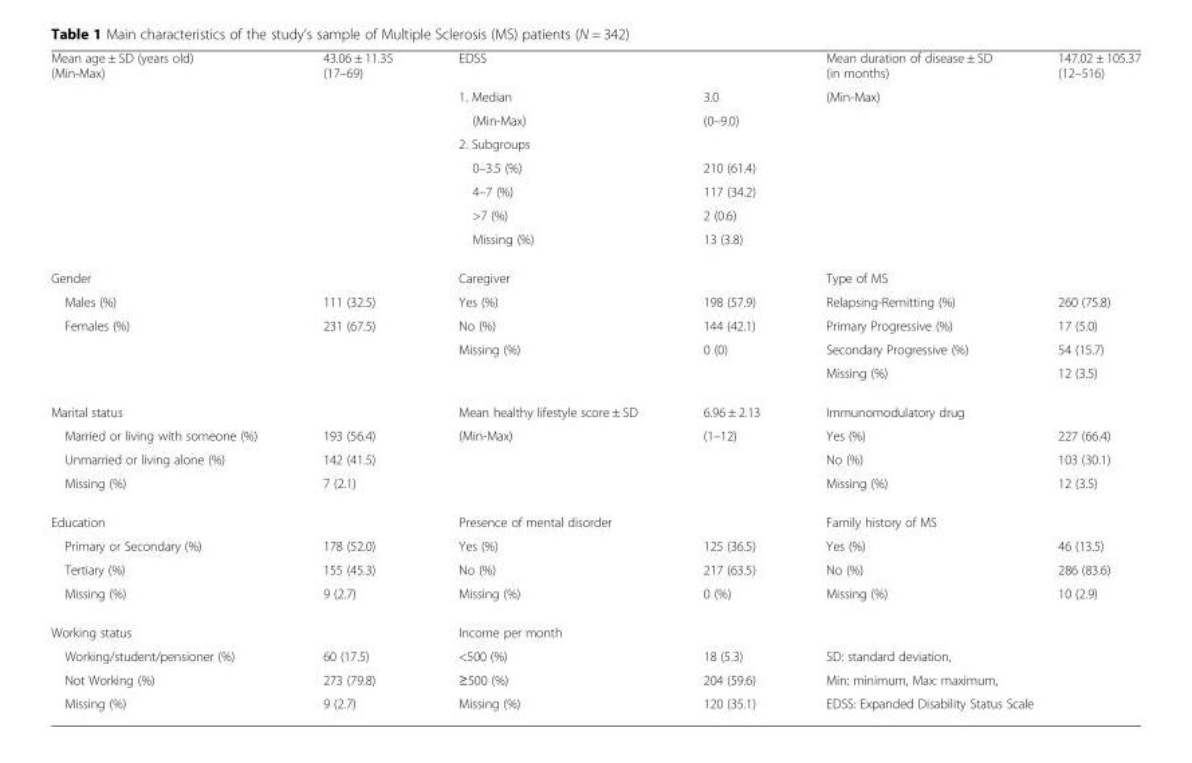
<table><tbody><tr><td rowspan="8">Mean age ± SD (years old) (Min-Max)</td><td rowspan="8">43.06 ± 11.35 (17–69)</td><td>EDSS</td><td></td><td>Mean duration of disease ± SD (in months)</td><td rowspan="8">147.02 ± 105.37 (12–516)</td></tr><tr><td>1. Median</td><td>3.0</td><td>(Min-Max)</td></tr><tr><td>(Min-Max)</td><td>(0–9.0)</td><td></td></tr><tr><td>2. Subgroups</td><td></td><td></td></tr><tr><td>0–3.5 (%)</td><td>210 (61.4)</td><td></td></tr><tr><td>4–7 (%)</td><td>117 (34.2)</td><td rowspan="3"></td></tr><tr><td>&gt;7 (%)</td><td>2 (0.6)</td></tr><tr><td>Missing (%)</td><td>13 (3.8)</td></tr><tr><td>Gender</td><td></td><td>Caregiver</td><td></td><td>Type of MS</td><td></td></tr><tr><td>Males (%)</td><td>111 (32.5)</td><td>Yes (%)</td><td>198 (57.9)</td><td>Relapsing-Remitting (%)</td><td>260 (75.8)</td></tr><tr><td rowspan="3">Females (%)</td><td rowspan="3">231 (67.5)</td><td>No (%)</td><td>144 (42.1)</td><td>Primary Progressive (%)</td><td>17 (5.0)</td></tr><tr><td rowspan="2">Missing (%)</td><td rowspan="2">0 (0)</td><td>Secondary Progressive (%)</td><td>54 (15.7)</td></tr><tr><td>Missing (%)</td><td>12 (3.5)</td></tr><tr><td>Marital status</td><td></td><td>Mean healthy lifestyle score ± SD</td><td>6.96 ± 2.13</td><td>Immunomodulatory drug</td><td></td></tr><tr><td>Married or living with someone (%)</td><td>193 (56.4)</td><td>(Min-Max)</td><td>(1–12)</td><td>Yes (%)</td><td>227 (66.4)</td></tr><tr><td>Unmarried or living alone (%)</td><td>142 (41.5)</td><td></td><td></td><td>No (%)</td><td>103 (30.1)</td></tr><tr><td>Missing (%)</td><td>7 (2.1)</td><td></td><td></td><td>Missing (%)</td><td>12 (3.5)</td></tr><tr><td>Education</td><td></td><td>Presence of mental disorder</td><td></td><td>Family history of MS</td><td></td></tr><tr><td>Primary or Secondary (%)</td><td>178 (52.0)</td><td>Yes (%)</td><td>125 (36.5)</td><td>Yes (%)</td><td>46 (13.5)</td></tr><tr><td>Tertiary (%)</td><td>155 (45.3)</td><td>No (%)</td><td>217 (63.5)</td><td>No (%)</td><td>286 (83.6)</td></tr><tr><td>Missing (%)</td><td>9 (2.7)</td><td>Missing (%)</td><td>0 (%)</td><td>Missing (%)</td><td>10 (2.9)</td></tr><tr><td>Working status</td><td></td><td>Income per month</td><td></td><td colspan="2"></td></tr><tr><td>Working/student/pensioner (%)</td><td>60 (17.5)</td><td>&lt;500 (%)</td><td>18 (5.3)</td><td colspan="2">SD: standard deviation,</td></tr><tr><td>Not Working (%)</td><td>273 (79.8)</td><td>≥500 (%)</td><td>204 (59.6)</td><td colspan="2">Min: minimum, Max: maximum,</td></tr><tr><td>Missing (%)</td><td>9 (2.7)</td><td>Missing (%)</td><td>120 (35.1)</td><td colspan="2">EDSS: Expanded Disability Status Scale</td></tr></tbody></table>